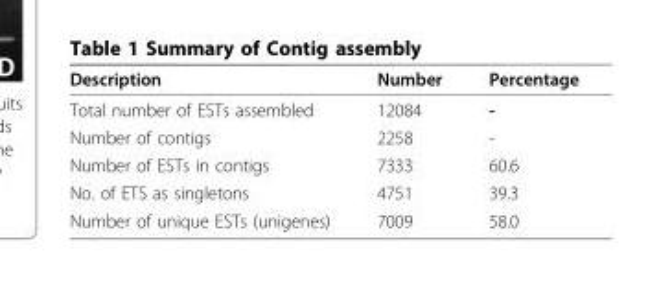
<table><thead><tr><td>Description</td><td>Number</td><td>Percentage</td></tr></thead><tbody><tr><td>Total number of ESTs assembled</td><td>12084</td><td>-</td></tr><tr><td>Number of contigs</td><td>2258</td><td>-</td></tr><tr><td>Number of ESTs in contigs</td><td>7333</td><td>60.6</td></tr><tr><td>No. of ETS as singletons</td><td>4751</td><td>39.3</td></tr><tr><td>Number of unique ESTs (unigenes)</td><td>7009</td><td>58.0</td></tr></tbody></table>